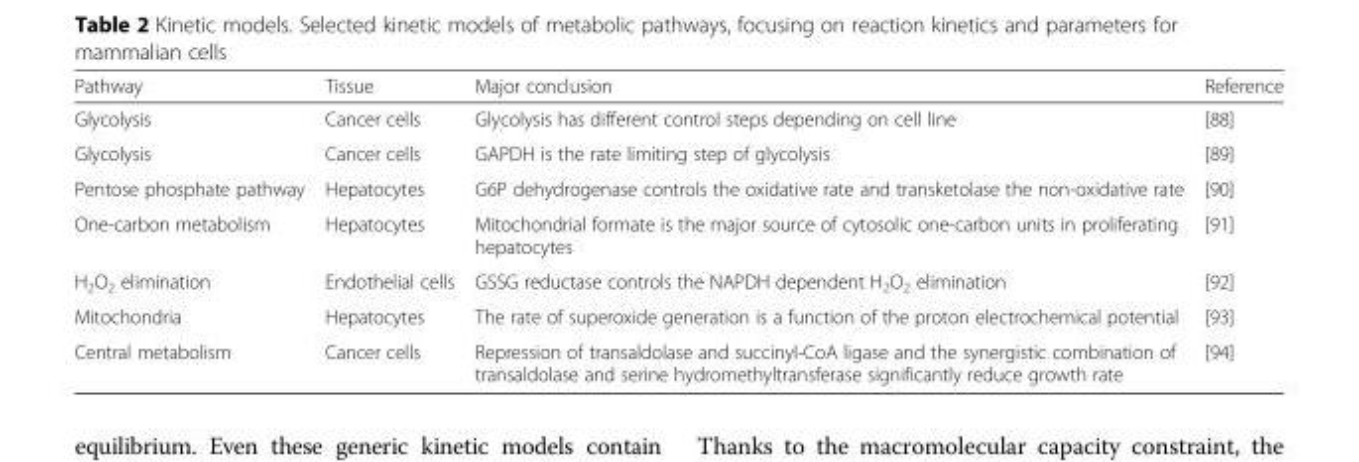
<table><thead><tr><td>Pathway</td><td>Tissue</td><td>Major conclusion</td><td>Reference</td></tr></thead><tbody><tr><td>Glycolysis</td><td>Cancer cells</td><td>Glycolysis has different control steps depending on cell line</td><td>[88]</td></tr><tr><td>Glycolysis</td><td>Cancer cells</td><td>GAPDH is the rate limiting step of glycolysis</td><td>[89]</td></tr><tr><td>Pentose phosphate pathway</td><td>Hepatocytes</td><td>G6P dehydrogenase controls the oxidative rate and transketolase the non-oxidative rate</td><td>[90]</td></tr><tr><td>One-carbon metabolism</td><td>Hepatocytes</td><td>Mitochondrial formate is the major source of cytosolic one-carbon units in proliferating hepatocytes</td><td>[91]</td></tr><tr><td>H<sub>2</sub>O<sub>2</sub> elimination</td><td>Endothelial cells</td><td>GSSG reductase controls the NAPDH dependent H<sub>2</sub>O<sub>2</sub> elimination</td><td>[92]</td></tr><tr><td>Mitochondria</td><td>Hepatocytes</td><td>The rate of superoxide generation is a function of the proton electrochemical potential</td><td>[93]</td></tr><tr><td>Central metabolism</td><td>Cancer cells</td><td>Repression of transaldolase and succinyl-CoA ligase and the synergistic combination of transaldolase and serine hydromethyltransferase significantly reduce growth rate</td><td>[94]</td></tr></tbody></table>